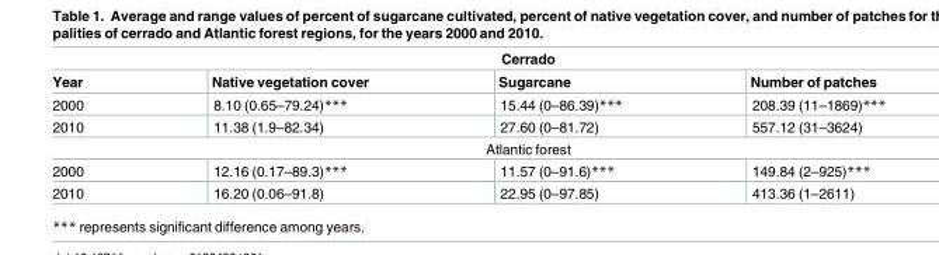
<table><thead><tr><td colspan="4">Cerrado</td></tr><tr><td>Year</td><td>Native vegetation cover</td><td>Sugarcane</td><td>Number of patches</td></tr></thead><tbody><tr><td>2000</td><td>8.10 (0.65–79.24)***</td><td>15.44 (0–86.39)***</td><td>208.39 (11–1869)***</td></tr><tr><td>2010</td><td>11.38 (1.9–82.34)</td><td>27.60 (0–81.72)</td><td>557.12 (31–3624)</td></tr><tr><td colspan="4">Atlantic forest</td></tr><tr><td>2000</td><td>12.16 (0.17–89.3)***</td><td>11.57 (0–91.6)***</td><td>149.84 (2–925)***</td></tr><tr><td>2010</td><td>16.20 (0.06–91.8)</td><td>22.95 (0–97.85)</td><td>413.36 (1–2611)</td></tr></tbody></table>